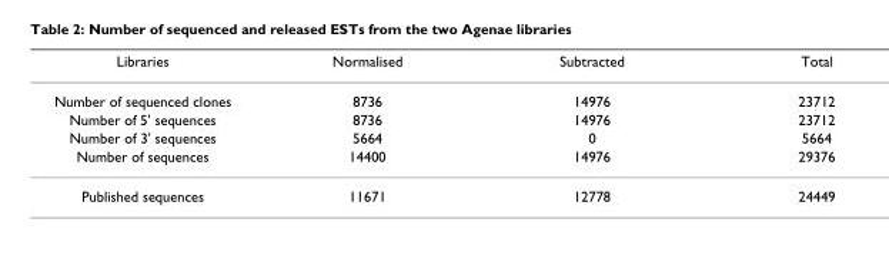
<table><thead><tr><td>Libraries</td><td>Normalised</td><td>Subtracted</td><td>Total</td></tr></thead><tbody><tr><td>Number of sequenced clones</td><td>8736</td><td>14976</td><td>23712</td></tr><tr><td>Number of 5&#x27; sequences</td><td>8736</td><td>14976</td><td>23712</td></tr><tr><td>Number of 3&#x27; sequences</td><td>5664</td><td>0</td><td>5664</td></tr><tr><td>Number of sequences</td><td>14400</td><td>14976</td><td>29376</td></tr><tr><td>Published sequences</td><td>11671</td><td>12778</td><td>24449</td></tr></tbody></table>